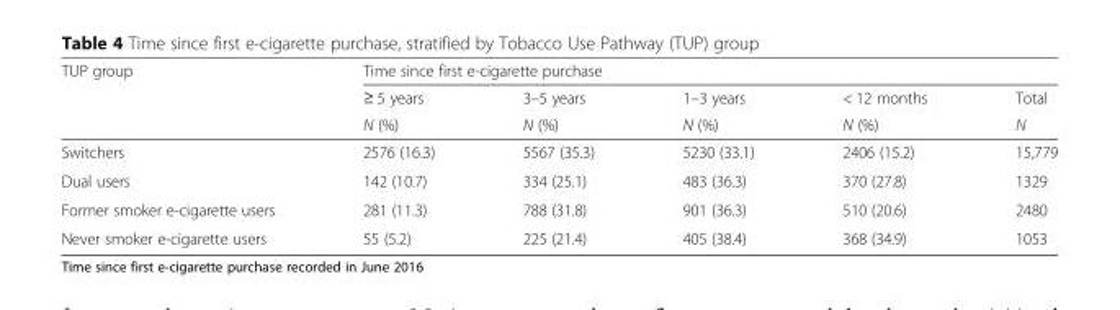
<table><thead><tr><td rowspan="3">TUP group</td><td colspan="5">Time since first e-cigarette purchase</td></tr><tr><td rowspan="2">≥ 5 years N (%)</td><td rowspan="2">3–5 years N (%)</td><td rowspan="2">1–3 years N (%)</td><td rowspan="2">&lt; 12 months N (%)</td><td rowspan="2">Total N</td></tr><tr></tr></thead><tbody><tr><td>Switchers</td><td>2576 (16.3)</td><td>5567 (35.3)</td><td>5230 (33.1)</td><td>2406 (15.2)</td><td>15,779</td></tr><tr><td>Dual users</td><td>142 (10.7)</td><td>334 (25.1)</td><td>483 (36.3)</td><td>370 (27.8)</td><td>1329</td></tr><tr><td>Former smoker e-cigarette users</td><td>281 (11.3)</td><td>788 (31.8)</td><td>901 (36.3)</td><td>510 (20.6)</td><td>2480</td></tr><tr><td>Never smoker e-cigarette users</td><td>55 (5.2)</td><td>225 (21.4)</td><td>405 (38.4)</td><td>368 (34.9)</td><td>1053</td></tr></tbody></table>